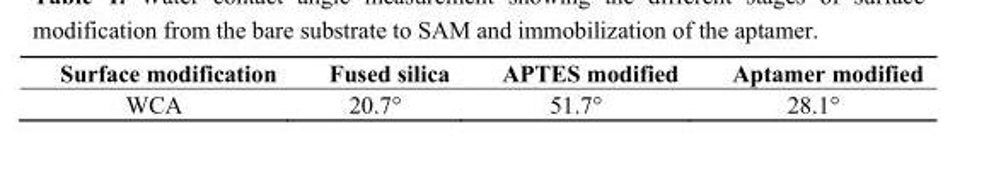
<table><thead><tr><td>Surface modification</td><td>Fused silica</td><td>APTES modified</td><td>Aptamer modified</td></tr></thead><tbody><tr><td>WCA</td><td>20.7°</td><td>51.7°</td><td>28.1°</td></tr></tbody></table>